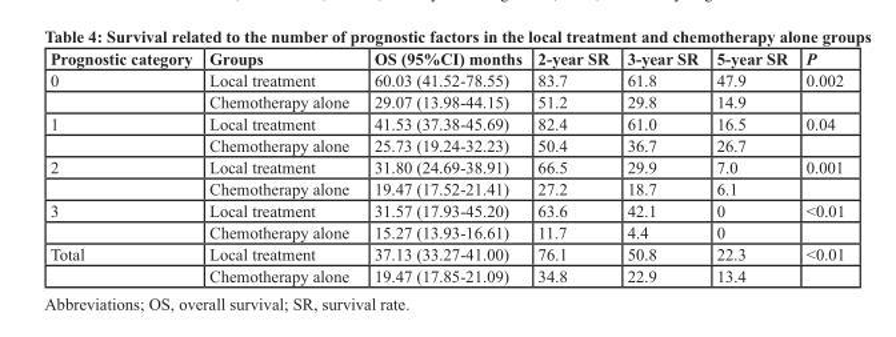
<table><thead><tr><td>Prognostic category</td><td>Groups</td><td>OS (95%CI) months</td><td>2-year SR</td><td>3-year SR</td><td>5-year SR</td><td>P</td></tr></thead><tbody><tr><td rowspan="2">0</td><td>Local treatment</td><td>60.03 (41.52-78.55)</td><td>83.7</td><td>61.8</td><td>47.9</td><td>0.002</td></tr><tr><td>Chemotherapy alone</td><td>29.07 (13.98-44.15)</td><td>51.2</td><td>29.8</td><td>14.9</td><td></td></tr><tr><td rowspan="2">1</td><td>Local treatment</td><td>41.53 (37.38-45.69)</td><td>82.4</td><td>61.0</td><td>16.5</td><td>0.04</td></tr><tr><td>Chemotherapy alone</td><td>25.73 (19.24-32.23)</td><td>50.4</td><td>36.7</td><td>26.7</td><td></td></tr><tr><td rowspan="2">2</td><td>Local treatment</td><td>31.80 (24.69-38.91)</td><td>66.5</td><td>29.9</td><td>7.0</td><td>0.001</td></tr><tr><td>Chemotherapy alone</td><td>19.47 (17.52-21.41)</td><td>27.2</td><td>18.7</td><td>6.1</td><td></td></tr><tr><td rowspan="2">3</td><td>Local treatment</td><td>31.57 (17.93-45.20)</td><td>63.6</td><td>42.1</td><td>0</td><td>&lt;0.01</td></tr><tr><td>Chemotherapy alone</td><td>15.27 (13.93-16.61)</td><td>11.7</td><td>4.4</td><td>0</td><td></td></tr><tr><td rowspan="2">Total</td><td>Local treatment</td><td>37.13 (33.27-41.00)</td><td>76.1</td><td>50.8</td><td>22.3</td><td>&lt;0.01</td></tr><tr><td>Chemotherapy alone</td><td>19.47 (17.85-21.09)</td><td>34.8</td><td>22.9</td><td>13.4</td><td></td></tr></tbody></table>